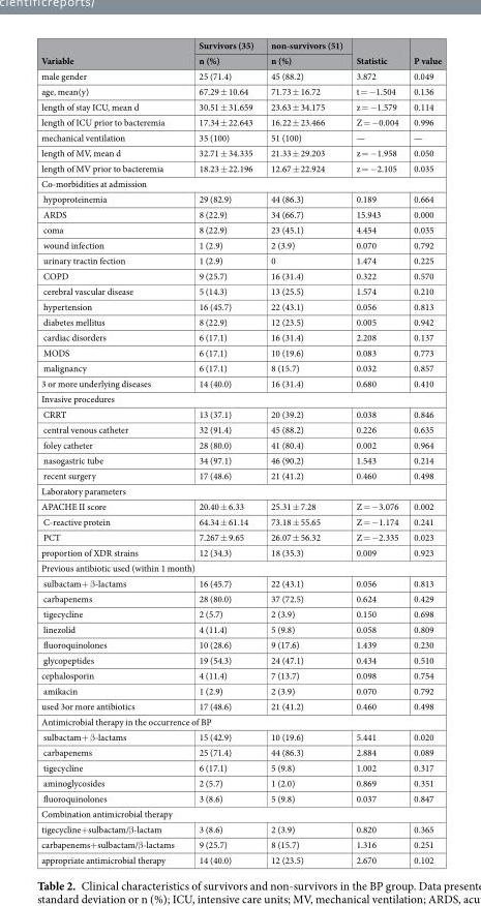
<table><thead><tr><td rowspan="2">Variable</td><td rowspan="2">Survivors (35) n (%)</td><td rowspan="2">non-survivors (51) n (%)</td><td rowspan="2">Statistic</td><td rowspan="2">P value</td></tr><tr></tr></thead><tbody><tr><td>male gender</td><td>25 (71.4)</td><td>45 (88.2)</td><td>3.872</td><td>0.049</td></tr><tr><td>age, mean(y)</td><td>67.29 ± 10.64</td><td>71.73 ± 16.72</td><td>t = −1.504</td><td>0.136</td></tr><tr><td>length of stay ICU, mean d</td><td>30.51 ± 31.659</td><td>23.63 ± 34.175</td><td>z = −1.579</td><td>0.114</td></tr><tr><td>length of ICU prior to bacteremia</td><td>17.34 ± 22.643</td><td>16.22 ± 23.466</td><td>Z = −0.004</td><td>0.996</td></tr><tr><td>mechanical ventilation</td><td>35 (100)</td><td>51 (100)</td><td>—</td><td>—</td></tr><tr><td>length of MV, mean d</td><td>32.71 ± 34.335</td><td>21.33 ± 29.203</td><td>z = −1.958</td><td>0.050</td></tr><tr><td>length of MV prior to bacteremia</td><td>18.23 ± 22.196</td><td>12.67 ± 22.924</td><td>z = −2.105</td><td>0.035</td></tr><tr><td colspan="5">Co-morbidities at admission</td></tr><tr><td>hypoproteinemia</td><td>29 (82.9)</td><td>44 (86.3)</td><td>0.189</td><td>0.664</td></tr><tr><td>ARDS</td><td>8 (22.9)</td><td>34 (66.7)</td><td>15.943</td><td>0.000</td></tr><tr><td>coma</td><td>8 (22.9)</td><td>23 (45.1)</td><td>4.454</td><td>0.035</td></tr><tr><td>wound infection</td><td>1 (2.9)</td><td>2 (3.9)</td><td>0.070</td><td>0.792</td></tr><tr><td>urinary tractin fection</td><td>1 (2.9)</td><td>0</td><td>1.474</td><td>0.225</td></tr><tr><td>COPD</td><td>9 (25.7)</td><td>16 (31.4)</td><td>0.322</td><td>0.570</td></tr><tr><td>cerebral vascular disease</td><td>5 (14.3)</td><td>13 (25.5)</td><td>1.574</td><td>0.210</td></tr><tr><td>hypertension</td><td>16 (45.7)</td><td>22 (43.1)</td><td>0.056</td><td>0.813</td></tr><tr><td>diabetes mellitus</td><td>8 (22.9)</td><td>12 (23.5)</td><td>0.005</td><td>0.942</td></tr><tr><td>cardiac disorders</td><td>6 (17.1)</td><td>16 (31.4)</td><td>2.208</td><td>0.137</td></tr><tr><td>MODS</td><td>6 (17.1)</td><td>10 (19.6)</td><td>0.083</td><td>0.773</td></tr><tr><td>malignancy</td><td>6 (17.1)</td><td>8 (15.7)</td><td>0.032</td><td>0.857</td></tr><tr><td>3 or more underlying diseases</td><td>14 (40.0)</td><td>16 (31.4)</td><td>0.680</td><td>0.410</td></tr><tr><td colspan="5">Invasive procedures</td></tr><tr><td>CRRT</td><td>13 (37.1)</td><td>20 (39.2)</td><td>0.038</td><td>0.846</td></tr><tr><td>central venous catheter</td><td>32 (91.4)</td><td>45 (88.2)</td><td>0.226</td><td>0.635</td></tr><tr><td>foley catheter</td><td>28 (80.0)</td><td>41 (80.4)</td><td>0.002</td><td>0.964</td></tr><tr><td>nasogastric tube</td><td>34 (97.1)</td><td>46 (90.2)</td><td>1.543</td><td>0.214</td></tr><tr><td>recent surgery</td><td>17 (48.6)</td><td>21 (41.2)</td><td>0.460</td><td>0.498</td></tr><tr><td colspan="5">Laboratory parameters</td></tr><tr><td>APACHE II score</td><td>20.40 ± 6.33</td><td>25.31 ± 7.28</td><td>Z = −3.076</td><td>0.002</td></tr><tr><td>C-reactive protein</td><td>64.34 ± 61.14</td><td>73.18 ± 55.65</td><td>Z = −1.174</td><td>0.241</td></tr><tr><td>PCT</td><td>7.267 ± 9.65</td><td>26.07 ± 56.32</td><td>Z = −2.335</td><td>0.023</td></tr><tr><td>proportion of XDR strains</td><td>12 (34.3)</td><td>18 (35.3)</td><td>0.009</td><td>0.923</td></tr><tr><td colspan="5">Previous antibiotic used (within 1 month)</td></tr><tr><td>sulbactam+ β-lactams</td><td>16 (45.7)</td><td>22 (43.1)</td><td>0.056</td><td>0.813</td></tr><tr><td>carbapenems</td><td>28 (80.0)</td><td>37 (72.5)</td><td>0.624</td><td>0.429</td></tr><tr><td>tigecycline</td><td>2 (5.7)</td><td>2 (3.9)</td><td>0.150</td><td>0.698</td></tr><tr><td>linezolid</td><td>4 (11.4)</td><td>5 (9.8)</td><td>0.058</td><td>0.809</td></tr><tr><td>fluoroquinolones</td><td>10 (28.6)</td><td>9 (17.6)</td><td>1.439</td><td>0.230</td></tr><tr><td>glycopeptides</td><td>19 (54.3)</td><td>24 (47.1)</td><td>0.434</td><td>0.510</td></tr><tr><td>cephalosporin</td><td>4 (11.4)</td><td>7 (13.7)</td><td>0.098</td><td>0.754</td></tr><tr><td>amikacin</td><td>1 (2.9)</td><td>2 (3.9)</td><td>0.070</td><td>0.792</td></tr><tr><td>used 3or more antibiotics</td><td>17 (48.6)</td><td>21 (41.2)</td><td>0.460</td><td>0.498</td></tr><tr><td colspan="5">Antimicrobial therapy in the occurrence of BP</td></tr><tr><td>sulbactam+ β-lactams</td><td>15 (42.9)</td><td>10 (19.6)</td><td>5.441</td><td>0.020</td></tr><tr><td>carbapenems</td><td>25 (71.4)</td><td>44 (86.3)</td><td>2.884</td><td>0.089</td></tr><tr><td>tigecycline</td><td>6 (17.1)</td><td>5 (9.8)</td><td>1.002</td><td>0.317</td></tr><tr><td>aminoglycosides</td><td>2 (5.7)</td><td>1 (2.0)</td><td>0.869</td><td>0.351</td></tr><tr><td>fluoroquinolones</td><td>3 (8.6)</td><td>5 (9.8)</td><td>0.037</td><td>0.847</td></tr><tr><td colspan="5">Combination antimicrobial therapy</td></tr><tr><td>tigecycline+sulbactam/β-lactam</td><td>3 (8.6)</td><td>2 (3.9)</td><td>0.820</td><td>0.365</td></tr><tr><td>carbapenems+sulbactam/β-lactams</td><td>9 (25.7)</td><td>8 (15.7)</td><td>1.316</td><td>0.251</td></tr><tr><td>appropriate antimicrobial therapy</td><td>14 (40.0)</td><td>12 (23.5)</td><td>2.670</td><td>0.102</td></tr></tbody></table>